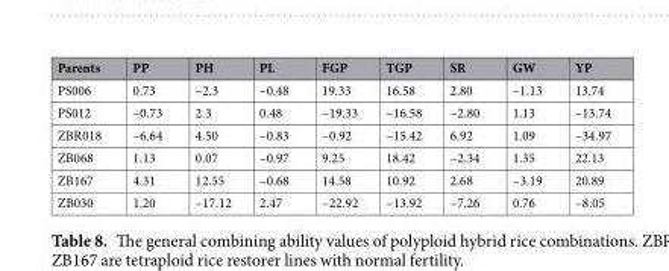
<table><thead><tr><td>Parents</td><td>PP</td><td>PH</td><td>PL</td><td>FGP</td><td>TGP</td><td>SR</td><td>GW</td><td>YP</td></tr></thead><tbody><tr><td>PS006</td><td>0.73</td><td>–2.3</td><td>–0.48</td><td>19.33</td><td>16.58</td><td>2.80</td><td>–1.13</td><td>13.74</td></tr><tr><td>PS012</td><td>–0.73</td><td>2.3</td><td>0.48</td><td>–19.33</td><td>–16.58</td><td>–2.80</td><td>1.13</td><td>–13.74</td></tr><tr><td>ZBR018</td><td>–6.64</td><td>4.50</td><td>–0.83</td><td>–0.92</td><td>–15.42</td><td>6.92</td><td>1.09</td><td>–34.97</td></tr><tr><td>ZB068</td><td>1.13</td><td>0.07</td><td>–0.97</td><td>9.25</td><td>18.42</td><td>–2.34</td><td>1.35</td><td>22.13</td></tr><tr><td>ZB167</td><td>4.31</td><td>12.55</td><td>–0.68</td><td>14.58</td><td>10.92</td><td>2.68</td><td>–3.19</td><td>20.89</td></tr><tr><td>ZB030</td><td>1.20</td><td>–17.12</td><td>2.47</td><td>–22.92</td><td>–13.92</td><td>–7.26</td><td>0.76</td><td>–8.05</td></tr></tbody></table>